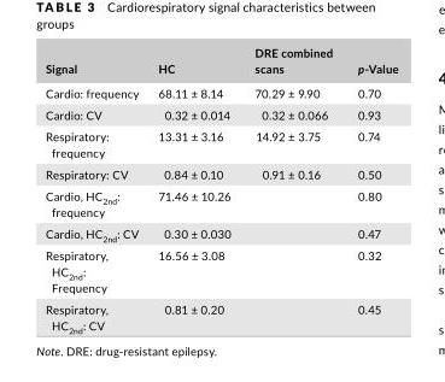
<table><thead><tr><td>Signal</td><td>HC</td><td>DRE combined scans</td><td>p- Value</td></tr></thead><tbody><tr><td>Cardio: frequency</td><td>68.11 ± 8.14</td><td>70.29 ± 9.90</td><td>0.70</td></tr><tr><td>Cardio: CV</td><td>0.32 ± 0.014</td><td>0.32 ± 0.066</td><td>0.93</td></tr><tr><td>Respiratory: frequency</td><td>13.31 ± 3.16</td><td>14.92 ± 3.75</td><td>0.74</td></tr><tr><td>Respiratory: CV</td><td>0.84 ± 0.10</td><td>0.91 ± 0.16</td><td>0.50</td></tr><tr><td>Cardio, HC<sub>2nd</sub>: frequency</td><td>71.46 ± 10.26</td><td></td><td>0.80</td></tr><tr><td>Cardio, HC<sub>2nd</sub>: CV</td><td>0.30 ± 0.030</td><td></td><td>0.47</td></tr><tr><td>Respiratory, HC<sub>2nd</sub>: Frequency</td><td>16.56 ± 3.08</td><td></td><td>0.32</td></tr><tr><td>Respiratory, HC<sub>2nd</sub>: CV</td><td>0.81 ± 0.20</td><td></td><td>0.45</td></tr></tbody></table>